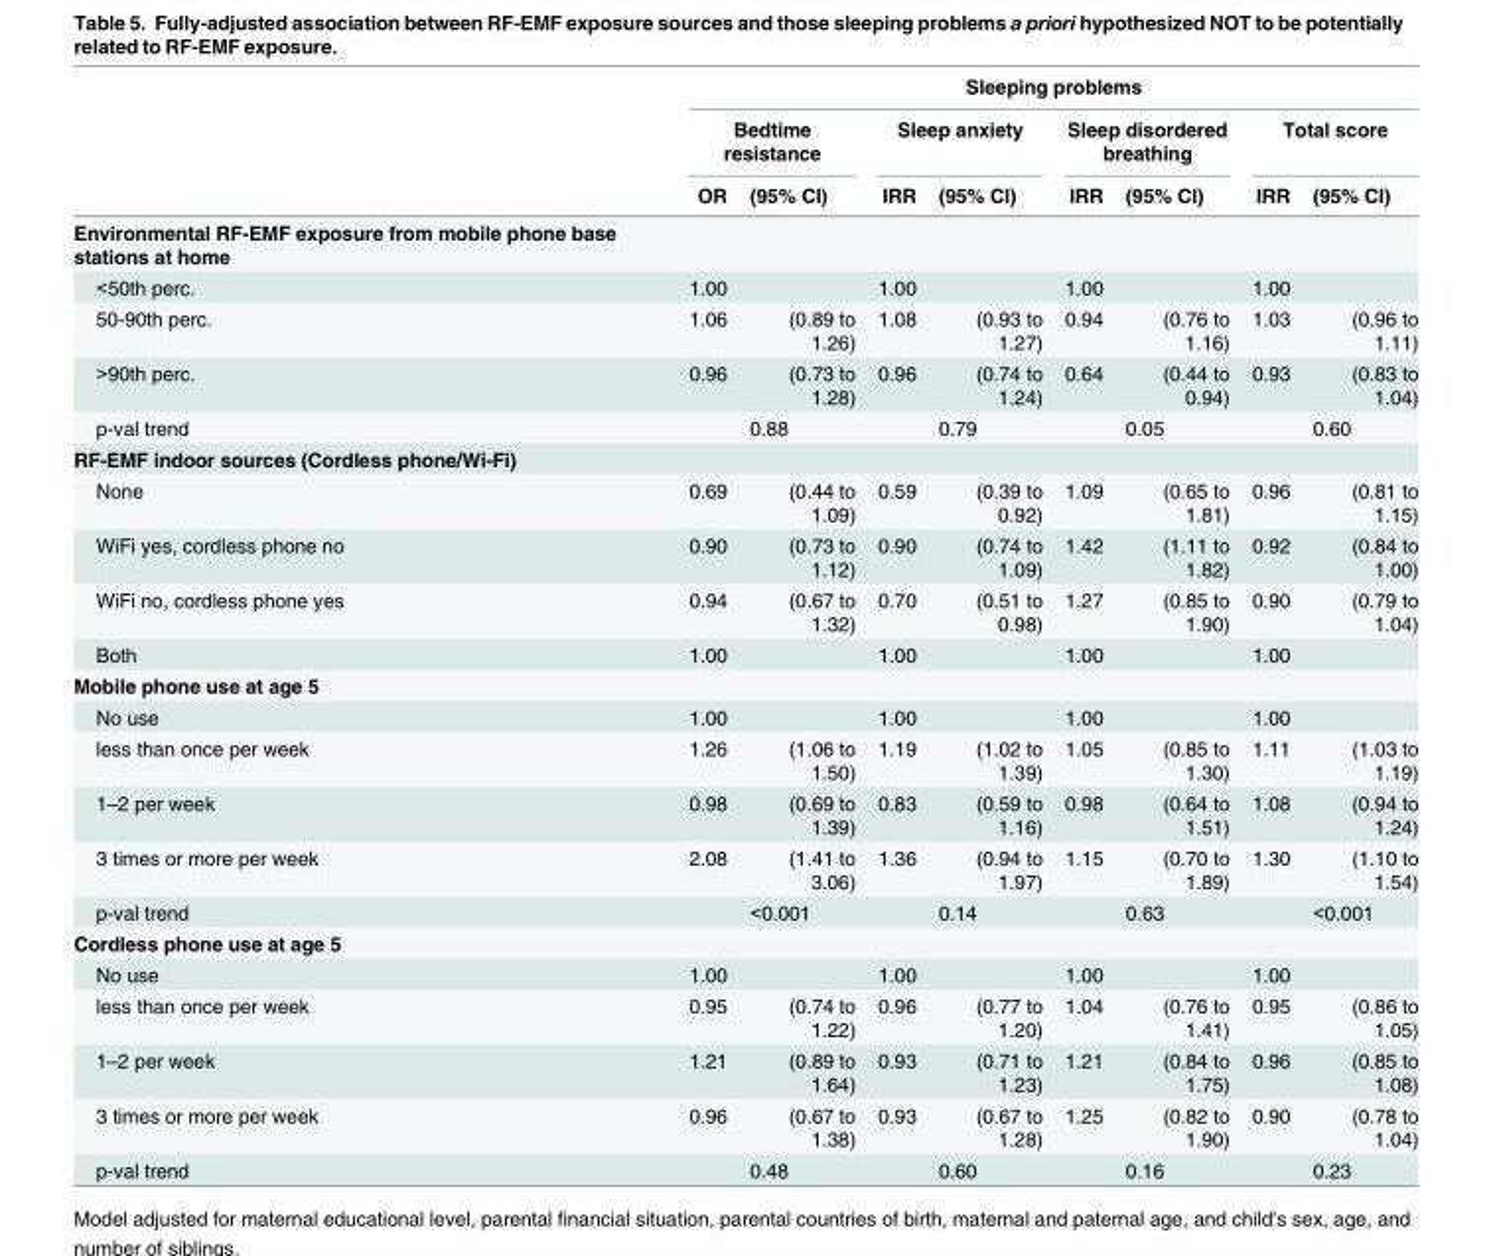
<table><thead><tr><td rowspan="3"></td><td colspan="8">Sleeping problems</td></tr><tr><td colspan="2">Bedtime resistance</td><td colspan="2">Sleep anxiety</td><td colspan="2">Sleep disordered breathing</td><td colspan="2">Total score</td></tr><tr><td>OR</td><td>(95% CI)</td><td>IRR</td><td>(95% CI)</td><td>IRR</td><td>(95% CI)</td><td>IRR</td><td>(95% CI)</td></tr></thead><tbody><tr><td colspan="9">Environmental RF-EMF exposure from mobile phone base stations at home</td></tr><tr><td>&lt;50th perc.</td><td>1.00</td><td></td><td>1.00</td><td></td><td>1.00</td><td></td><td>1.00</td><td></td></tr><tr><td>50-90th perc.</td><td>1.06</td><td>(0.89 to 1.26)</td><td>1.08</td><td>(0.93 to 1.27)</td><td>0.94</td><td>(0.76 to 1.16)</td><td>1.03</td><td>(0.96 to 1.11)</td></tr><tr><td>&gt;90th perc.</td><td>0.96</td><td>(0.73 to 1.28)</td><td>0.96</td><td>(0.74 to 1.24)</td><td>0.64</td><td>(0.44 to 0.94)</td><td>0.93</td><td>(0.83 to 1.04)</td></tr><tr><td>p-val trend</td><td></td><td>0.88</td><td></td><td>0.79</td><td></td><td>0.05</td><td></td><td>0.60</td></tr><tr><td colspan="9">RF-EMF indoor sources (Cordless phone/Wi-Fi)</td></tr><tr><td>None</td><td>0.69</td><td>(0.44 to 1.09)</td><td>0.59</td><td>(0.39 to 0.92)</td><td>1.09</td><td>(0.65 to 1.81)</td><td>0.96</td><td>(0.81 to 1.15)</td></tr><tr><td>WiFi yes, cordless phone no</td><td>0.90</td><td>(0.73 to 1.12)</td><td>0.90</td><td>(0.74 to 1.09)</td><td>1.42</td><td>(1.11 to 1.82)</td><td>0.92</td><td>(0.84 to 1.00)</td></tr><tr><td>WiFi no, cordless phone yes</td><td>0.94</td><td>(0.67 to 1.32)</td><td>0.70</td><td>(0.51 to 0.98)</td><td>1.27</td><td>(0.85 to 1.90)</td><td>0.90</td><td>(0.79 to 1.04)</td></tr><tr><td>Both</td><td>1.00</td><td></td><td>1.00</td><td></td><td>1.00</td><td></td><td>1.00</td><td></td></tr><tr><td colspan="9">Mobile phone use at age 5</td></tr><tr><td>No use</td><td>1.00</td><td></td><td>1.00</td><td></td><td>1.00</td><td></td><td>1.00</td><td></td></tr><tr><td>less than once per week</td><td>1.26</td><td>(1.06 to 1.50)</td><td>1.19</td><td>(1.02 to 1.39)</td><td>1.05</td><td>(0.85 to 1.30)</td><td>1.11</td><td>(1.03 to 1.19)</td></tr><tr><td>1–2 per week</td><td>0.98</td><td>(0.69 to 1.39)</td><td>0.83</td><td>(0.59 to 1.16)</td><td>0.98</td><td>(0.64 to 1.51)</td><td>1.08</td><td>(0.94 to 1.24)</td></tr><tr><td>3 times or more per week</td><td>2.08</td><td>(1.41 to 3.06)</td><td>1.36</td><td>(0.94 to 1.97)</td><td>1.15</td><td>(0.70 to 1.89)</td><td>1.30</td><td>(1.10 to 1.54)</td></tr><tr><td>p-val trend</td><td></td><td>&lt;0.001</td><td></td><td>0.14</td><td></td><td>0.63</td><td></td><td>&lt;0.001</td></tr><tr><td colspan="9">Cordless phone use at age 5</td></tr><tr><td>No use</td><td>1.00</td><td></td><td>1.00</td><td></td><td>1.00</td><td></td><td>1.00</td><td></td></tr><tr><td>less than once per week</td><td>0.95</td><td>(0.74 to 1.22)</td><td>0.96</td><td>(0.77 to 1.20)</td><td>1.04</td><td>(0.76 to 1.41)</td><td>0.95</td><td>(0.86 to 1.05)</td></tr><tr><td>1–2 per week</td><td>1.21</td><td>(0.89 to 1.64)</td><td>0.93</td><td>(0.71 to 1.23)</td><td>1.21</td><td>(0.84 to 1.75)</td><td>0.96</td><td>(0.85 to 1.08)</td></tr><tr><td>3 times or more per week</td><td>0.96</td><td>(0.67 to 1.38)</td><td>0.93</td><td>(0.67 to 1.28)</td><td>1.25</td><td>(0.82 to 1.90)</td><td>0.90</td><td>(0.78 to 1.04)</td></tr><tr><td>p-val trend</td><td></td><td>0.48</td><td></td><td>0.60</td><td></td><td>0.16</td><td></td><td>0.23</td></tr></tbody></table>